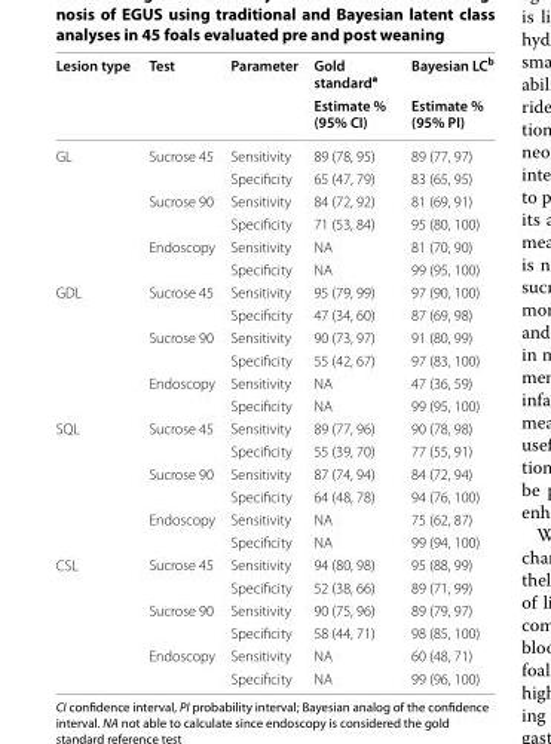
<table><thead><tr><td rowspan="2">Lesion type</td><td rowspan="2">Test</td><td rowspan="2">Parameter</td><td rowspan="2">Gold standard<sup>a</sup> Estimate % (95% CI)</td><td rowspan="2">Bayesian LC<sup>b</sup> Estimate % (95% PI)</td></tr><tr></tr></thead><tbody><tr><td rowspan="6">GL</td><td rowspan="2">Sucrose 45</td><td>Sensitivity</td><td>89 (78, 95)</td><td>89 (77, 97)</td></tr><tr><td>Specificity</td><td>65 (47, 79)</td><td>83 (65, 95)</td></tr><tr><td rowspan="2">Sucrose 90</td><td>Sensitivity</td><td>84 (72, 92)</td><td>81 (69, 91)</td></tr><tr><td>Specificity</td><td>71 (53, 84)</td><td>95 (80, 100)</td></tr><tr><td rowspan="2">Endoscopy</td><td>Sensitivity</td><td>NA</td><td>81 (70, 90)</td></tr><tr><td>Specificity</td><td>NA</td><td>99 (95, 100)</td></tr><tr><td rowspan="6">GDL</td><td rowspan="2">Sucrose 45</td><td>Sensitivity</td><td>95 (79, 99)</td><td>97 (90, 100)</td></tr><tr><td>Specificity</td><td>47 (34, 60)</td><td>87 (69, 98)</td></tr><tr><td rowspan="2">Sucrose 90</td><td>Sensitivity</td><td>90 (73, 97)</td><td>91 (80, 99)</td></tr><tr><td>Specificity</td><td>55 (42, 67)</td><td>97 (83, 100)</td></tr><tr><td rowspan="2">Endoscopy</td><td>Sensitivity</td><td>NA</td><td>47 (36, 59)</td></tr><tr><td>Specificity</td><td>NA</td><td>99 (95, 100)</td></tr><tr><td rowspan="6">SQL</td><td rowspan="2">Sucrose 45</td><td>Sensitivity</td><td>89 (77, 96)</td><td>90 (78, 98)</td></tr><tr><td>Specificity</td><td>55 (39, 70)</td><td>77 (55, 91)</td></tr><tr><td rowspan="2">Sucrose 90</td><td>Sensitivity</td><td>87 (74, 94)</td><td>84 (72, 94)</td></tr><tr><td>Specificity</td><td>64 (48, 78)</td><td>94 (76, 100)</td></tr><tr><td rowspan="2">Endoscopy</td><td>Sensitivity</td><td>NA</td><td>75 (62, 87)</td></tr><tr><td>Specificity</td><td>NA</td><td>99 (94, 100)</td></tr><tr><td rowspan="6">CSL</td><td rowspan="2">Sucrose 45</td><td>Sensitivity</td><td>94 (80, 98)</td><td>95 (88, 99)</td></tr><tr><td>Specificity</td><td>52 (38, 66)</td><td>89 (71, 99)</td></tr><tr><td rowspan="2">Sucrose 90</td><td>Sensitivity</td><td>90 (75, 96)</td><td>89 (79, 97)</td></tr><tr><td>Specificity</td><td>58 (44, 71)</td><td>98 (85, 100)</td></tr><tr><td rowspan="2">Endoscopy</td><td>Sensitivity</td><td>NA</td><td>60 (48, 71)</td></tr><tr><td>Specificity</td><td>NA</td><td>99 (96, 100)</td></tr></tbody></table>